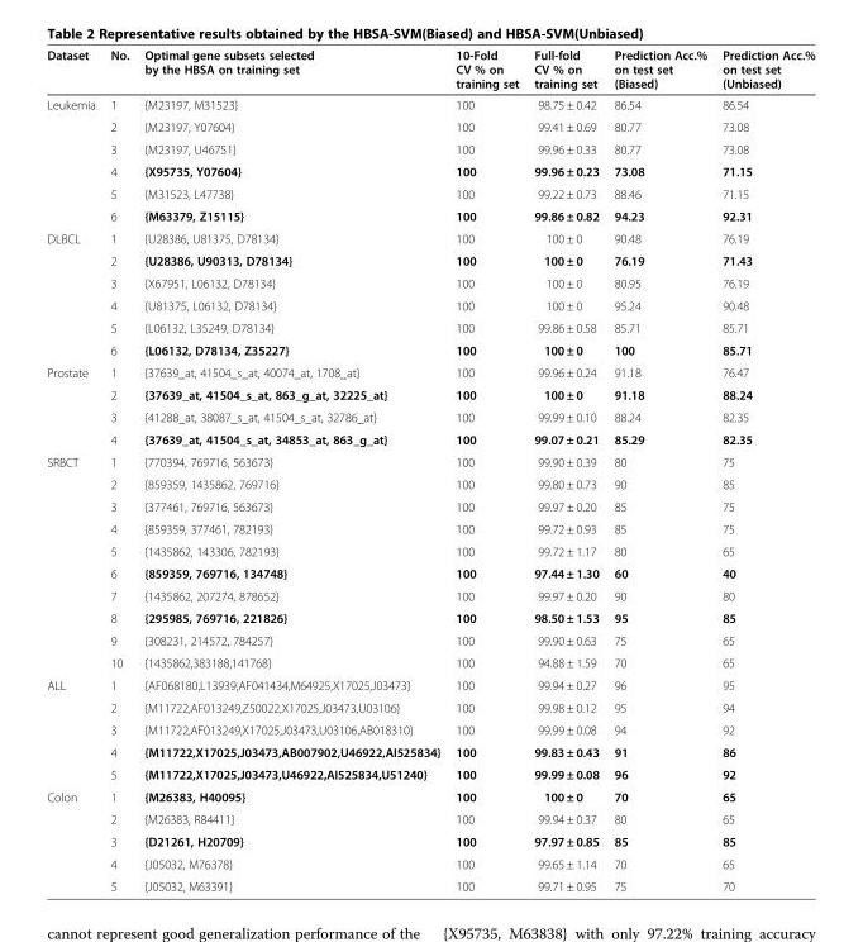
<table><thead><tr><td>Dataset</td><td>No.</td><td>Optimal gene subsets selected by the HBSA on training set</td><td>10-Fold CV % on training set</td><td>Full-fold CV % on training set</td><td>Prediction Acc.% on test set (Biased)</td><td>Prediction Acc.% on test set (Unbiased)</td></tr></thead><tbody><tr><td rowspan="6">Leukemia</td><td>1</td><td>{M23197, M31523}</td><td>100</td><td>98.75 ± 0.42</td><td>86.54</td><td>86.54</td></tr><tr><td>2</td><td>{M23197, Y07604}</td><td>100</td><td>99.41 ± 0.69</td><td>80.77</td><td>73.08</td></tr><tr><td>3</td><td>{M23197, U46751}</td><td>100</td><td>99.96 ± 0.33</td><td>80.77</td><td>73.08</td></tr><tr><td>4</td><td>{X95735, Y07604}</td><td>100</td><td>99.96 ± 0.23</td><td>73.08</td><td>71.15</td></tr><tr><td>5</td><td>{M31523, L47738}</td><td>100</td><td>99.22 ± 0.73</td><td>88.46</td><td>71.15</td></tr><tr><td>6</td><td>{M63379, Z15115}</td><td>100</td><td>99.86 ± 0.82</td><td>94.23</td><td>92.31</td></tr><tr><td rowspan="6">DLBCL</td><td>1</td><td>{U28386, U81375, D78134}</td><td>100</td><td>100 ± 0</td><td>90.48</td><td>76.19</td></tr><tr><td>2</td><td>{U28386, U90313, D78134}</td><td>100</td><td>100 ± 0</td><td>76.19</td><td>71.43</td></tr><tr><td>3</td><td>{X67951, L06132, D78134}</td><td>100</td><td>100 ± 0</td><td>80.95</td><td>76.19</td></tr><tr><td>4</td><td>{U81375, L06132, D78134}</td><td>100</td><td>100 ± 0</td><td>95.24</td><td>90.48</td></tr><tr><td>5</td><td>{L06132, L35249, D78134}</td><td>100</td><td>99.86 ± 0.58</td><td>85.71</td><td>85.71</td></tr><tr><td>6</td><td>{L06132, D78134, Z35227}</td><td>100</td><td>100 ± 0</td><td>100</td><td>85.71</td></tr><tr><td rowspan="4">Prostate</td><td>1</td><td>{37639_at, 41504_s_at, 40074_at, 1708_at}</td><td>100</td><td>99.96 ± 0.24</td><td>91.18</td><td>76.47</td></tr><tr><td>2</td><td>{37639_at, 41504_s_at, 863_g_at, 32225_at}</td><td>100</td><td>100 ± 0</td><td>91.18</td><td>88.24</td></tr><tr><td>3</td><td>{41288_at, 38087_s_at, 41504_s_at, 32786_at}</td><td>100</td><td>99.99 ± 0.10</td><td>88.24</td><td>82.35</td></tr><tr><td>4</td><td>{37639_at, 41504_s_at, 34853_at, 863_g_at}</td><td>100</td><td>99.07 ± 0.21</td><td>85.29</td><td>82.35</td></tr><tr><td rowspan="10">SRBCT</td><td>1</td><td>{770394, 769716, 563673}</td><td>100</td><td>99.90 ± 0.39</td><td>80</td><td>75</td></tr><tr><td>2</td><td>{859359, 1435862, 769716}</td><td>100</td><td>99.80 ± 0.73</td><td>90</td><td>85</td></tr><tr><td>3</td><td>{377461, 769716, 563673}</td><td>100</td><td>99.97 ± 0.20</td><td>85</td><td>75</td></tr><tr><td>4</td><td>{859359, 377461, 782193}</td><td>100</td><td>99.72 ± 0.93</td><td>85</td><td>75</td></tr><tr><td>5</td><td>{1435862, 143306, 782193}</td><td>100</td><td>99.72 ± 1.17</td><td>80</td><td>65</td></tr><tr><td>6</td><td>{859359, 769716, 134748}</td><td>100</td><td>97.44 ± 1.30</td><td>60</td><td>40</td></tr><tr><td>7</td><td>{1435862, 207274, 878652}</td><td>100</td><td>99.97 ± 0.20</td><td>90</td><td>80</td></tr><tr><td>8</td><td>{295985, 769716, 221826}</td><td>100</td><td>98.50 ± 1.53</td><td>95</td><td>85</td></tr><tr><td>9</td><td>{308231, 214572, 784257}</td><td>100</td><td>99.90 ± 0.63</td><td>75</td><td>65</td></tr><tr><td>10</td><td>{1435862,383188,141768}</td><td>100</td><td>94.88 ± 1.59</td><td>70</td><td>65</td></tr><tr><td rowspan="5">ALL</td><td>1</td><td>{AF068180,L13939,AF041434,M64925,X17025,J03473}</td><td>100</td><td>99.94 ± 0.27</td><td>96</td><td>95</td></tr><tr><td>2</td><td>{M11722,AF013249,Z50022,X17025,J03473,U03106}</td><td>100</td><td>99.98 ± 0.12</td><td>95</td><td>94</td></tr><tr><td>3</td><td>{M11722,AF013249,X17025,J03473,U03106,AB018310}</td><td>100</td><td>99.99 ± 0.08</td><td>94</td><td>92</td></tr><tr><td>4</td><td>{M11722,X17025,J03473,AB007902,U46922,AI525834}</td><td>100</td><td>99.83 ± 0.43</td><td>91</td><td>86</td></tr><tr><td>5</td><td>{M11722,X17025,J03473,U46922,AI525834,U51240}</td><td>100</td><td>99.99 ± 0.08</td><td>96</td><td>92</td></tr><tr><td rowspan="5">Colon</td><td>1</td><td>{M26383, H40095}</td><td>100</td><td>100 ± 0</td><td>70</td><td>65</td></tr><tr><td>2</td><td>{M26383, R84411}</td><td>100</td><td>99.94 ± 0.37</td><td>80</td><td>65</td></tr><tr><td>3</td><td>{D21261, H20709}</td><td>100</td><td>97.97 ± 0.85</td><td>85</td><td>85</td></tr><tr><td>4</td><td>{J05032, M76378}</td><td>100</td><td>99.65 ± 1.14</td><td>70</td><td>65</td></tr><tr><td>5</td><td>{J05032, M63391}</td><td>100</td><td>99.71 ± 0.95</td><td>75</td><td>70</td></tr></tbody></table>